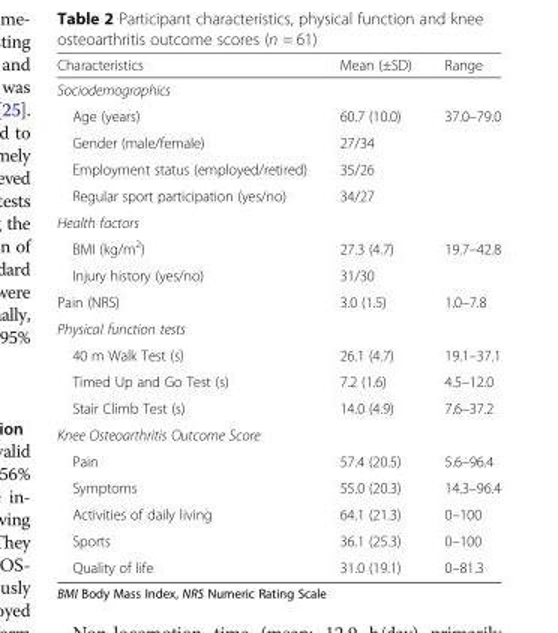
<table><thead><tr><td>Characteristics</td><td>Mean (±SD)</td><td>Range</td></tr></thead><tbody><tr><td colspan="3">Sociodemographics</td></tr><tr><td>Age (years)</td><td>60.7 (10.0)</td><td>37.0–79.0</td></tr><tr><td>Gender (male/female)</td><td>27/34</td><td></td></tr><tr><td>Employment status (employed/retired)</td><td>35/26</td><td></td></tr><tr><td>Regular sport participation (yes/no)</td><td>34/27</td><td></td></tr><tr><td colspan="3">Health factors</td></tr><tr><td>BMI (kg/m<sup>2</sup>)</td><td>27.3 (4.7)</td><td>19.7–42.8</td></tr><tr><td>Injury history (yes/no)</td><td>31/30</td><td></td></tr><tr><td>Pain (NRS)</td><td>3.0 (1.5)</td><td>1.0–7.8</td></tr><tr><td colspan="3">Physical function tests</td></tr><tr><td>40 m Walk Test (s)</td><td>26.1 (4.7)</td><td>19.1–37.1</td></tr><tr><td>Timed Up and Go Test (s)</td><td>7.2 (1.6)</td><td>4.5–12.0</td></tr><tr><td>Stair Climb Test (s)</td><td>14.0 (4.9)</td><td>7.6–37.2</td></tr><tr><td colspan="3">Knee Osteoarthritis Outcome Score</td></tr><tr><td>Pain</td><td>57.4 (20.5)</td><td>5.6–96.4</td></tr><tr><td>Symptoms</td><td>55.0 (20.3)</td><td>14.3–96.4</td></tr><tr><td>Activities of daily living</td><td>64.1 (21.3)</td><td>0–100</td></tr><tr><td>Sports</td><td>36.1 (25.3)</td><td>0–100</td></tr><tr><td>Quality of life</td><td>31.0 (19.1)</td><td>0–81.3</td></tr></tbody></table>